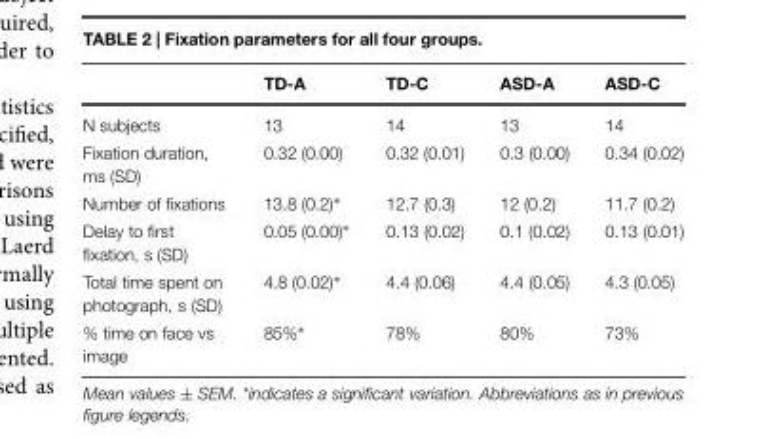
<table><thead><tr><td></td><td>TD-A</td><td>TD-C</td><td>ASD-A</td><td>ASD-C</td></tr></thead><tbody><tr><td>N subjects</td><td>13</td><td>14</td><td>13</td><td>14</td></tr><tr><td>Fixation duration, ms (SD)</td><td>0.32 (0.00)</td><td>0.32 (0.01)</td><td>0.3 (0.00)</td><td>0.34 (0.02)</td></tr><tr><td>Number of fixations</td><td>13.8 (0.2)∗</td><td>12.7 (0.3)</td><td>12 (0.2)</td><td>11.7 (0.2)</td></tr><tr><td>Delay to first fixation, s (SD)</td><td>0.05 (0.00)∗</td><td>0.13 (0.02)</td><td>0.1 (0.02)</td><td>0.13 (0.01)</td></tr><tr><td>Total time spent on photograph, s (SD)</td><td>4.8 (0.02)∗</td><td>4.4 (0.06)</td><td>4.4 (0.05)</td><td>4.3 (0.05)</td></tr><tr><td>% time on face vs image</td><td>85%∗</td><td>78%</td><td>80%</td><td>73%</td></tr></tbody></table>